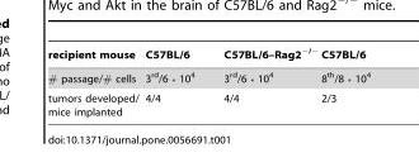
<table><thead><tr><td>recipient mouse</td><td>C57BL/6</td><td>C57BL/6–Rag2<sup>−/−</sup></td><td>C57BL/6</td></tr></thead><tbody><tr><td># passage/# cells</td><td>3<sup>rd</sup>/6 <sub>*</sub> 10<sup>4</sup></td><td>3<sup>rd</sup>/6 <sub>*</sub> 10<sup>4</sup></td><td>8<sup>th</sup>/8 <sub>*</sub> 10<sup>4</sup></td></tr><tr><td>tumors developed/ mice implanted</td><td>4/4</td><td>4/4</td><td>2/3</td></tr></tbody></table>